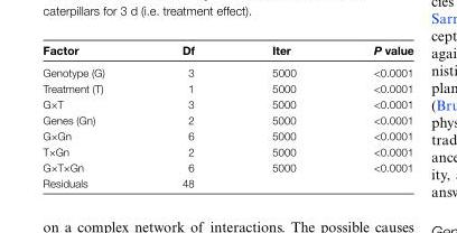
<table><thead><tr><td>Factor</td><td>Df</td><td>Iter</td><td>P value</td></tr></thead><tbody><tr><td>Genotype (G)</td><td>3</td><td>5000</td><td>&lt;0.0001</td></tr><tr><td>Treatment (T)</td><td>1</td><td>5000</td><td>&lt;0.0001</td></tr><tr><td>G×T</td><td>3</td><td>5000</td><td>&lt;0.0001</td></tr><tr><td>Genes (Gn)</td><td>2</td><td>5000</td><td>&lt;0.0001</td></tr><tr><td>G×Gn</td><td>6</td><td>5000</td><td>&lt;0.0001</td></tr><tr><td>T×Gn</td><td>2</td><td>5000</td><td>&lt;0.0001</td></tr><tr><td>G×T×Gn</td><td>6</td><td>5000</td><td>&lt;0.0001</td></tr><tr><td>Residuals</td><td>48</td><td></td><td></td></tr></tbody></table>